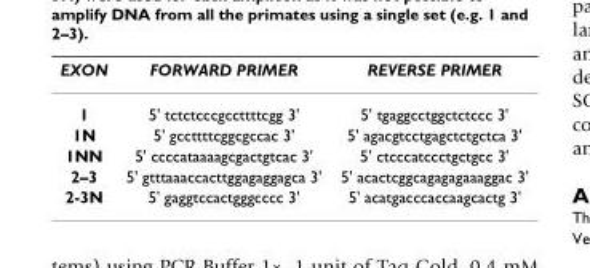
<table><thead><tr><td>EXON</td><td>FORWARD PRIMER</td><td>REVERSE PRIMER</td></tr></thead><tbody><tr><td>1</td><td>5&#x27; tctctcccgccttttcgg 3&#x27;</td><td>5&#x27; tgaggcctggctctccc 3&#x27;</td></tr><tr><td>1N</td><td>5&#x27; gccttttcggcgccac 3&#x27;</td><td>5&#x27; agacgtcctgagctctgctca 3&#x27;</td></tr><tr><td>1NN</td><td>5&#x27; ccccataaaagcgactgtcac 3&#x27;</td><td>5&#x27; ctcccatccctgctgcc 3&#x27;</td></tr><tr><td>2–3</td><td>5&#x27; gtttaaaccacttggagaggagca 3&#x27;</td><td>5&#x27; acactcggcagagagaaaggac 3&#x27;</td></tr><tr><td>2-3N</td><td>5&#x27; gaggtccactgggcccc 3&#x27;</td><td>5&#x27; acatgacccaccaagcactg 3&#x27;</td></tr></tbody></table>